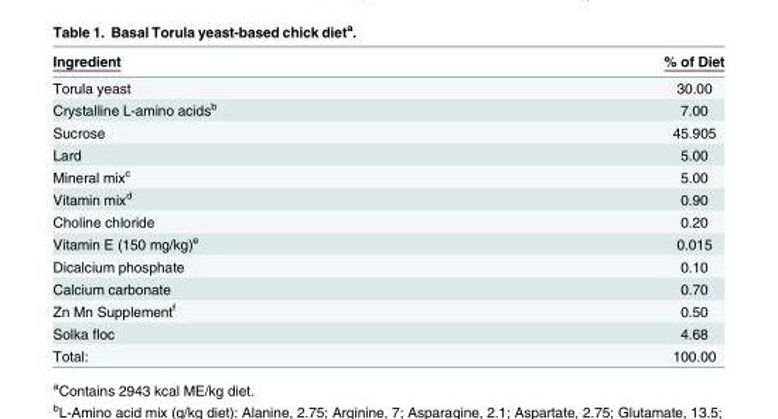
<table><thead><tr><td>Ingredient</td><td>% of Diet</td></tr></thead><tbody><tr><td>Torula yeast</td><td>30.00</td></tr><tr><td>Crystalline L-amino acids<sup>b</sup></td><td>7.00</td></tr><tr><td>Sucrose</td><td>45.905</td></tr><tr><td>Lard</td><td>5.00</td></tr><tr><td>Mineral mix<sup>c</sup></td><td>5.00</td></tr><tr><td>Vitamin mix<sup>d</sup></td><td>0.90</td></tr><tr><td>Choline chloride</td><td>0.20</td></tr><tr><td>Vitamin E (150 mg/kg)<sup>e</sup></td><td>0.015</td></tr><tr><td>Dicalcium phosphate</td><td>0.10</td></tr><tr><td>Calcium carbonate</td><td>0.70</td></tr><tr><td>Zn Mn Supplement<sup>f</sup></td><td>0.50</td></tr><tr><td>Solka floc</td><td>4.68</td></tr><tr><td>Total:</td><td>100.00</td></tr></tbody></table>